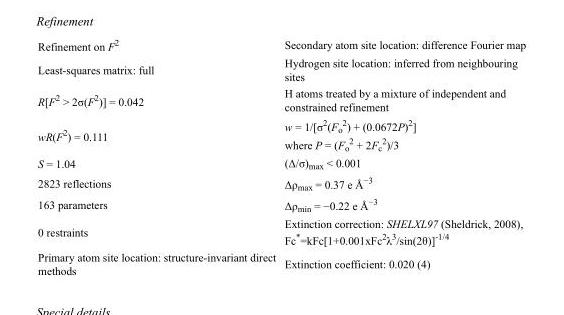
<table><tbody><tr><td>Refinement on F<sup>2</sup></td><td>Secondary atom site location: difference Fourier map</td></tr><tr><td>Least-squares matrix: full</td><td>Hydrogen site location: inferred from neighbouring sites</td></tr><tr><td>R[F<sup>2</sup> &gt; 2σ(F<sup>2</sup>)] = 0.042</td><td>H atoms treated by a mixture of independent and constrained refinement</td></tr><tr><td>wR(F<sup>2</sup>) = 0.111</td><td>w = 1/[σ<sup>2</sup>(F<sub>o</sub> <sup>2</sup>) + (0.0672P)<sup>2</sup>] where P = (F<sub>o</sub> <sup>2</sup> + 2F<sub>c</sub> <sup>2</sup>)/3</td></tr><tr><td>S = 1.04</td><td>(Δ/σ)<sub>max</sub> &lt; 0.001</td></tr><tr><td>2823 reflections</td><td>Δρ<sub>max</sub> = 0.37 e Å<sup>−3</sup></td></tr><tr><td>163 parameters</td><td>Δρ<sub>min</sub> = −0.22 e Å<sup>−3</sup></td></tr><tr><td>0 restraints</td><td>Extinction correction: SHELXL97 (Sheldrick, 2008), Fc*=kFc[1+0.001xFc<sup>2</sup>λ<sup>3</sup>/sin(2θ)]<sup>-1/4</sup></td></tr><tr><td>Primary atom site location: structure-invariant direct methods</td><td>Extinction coefficient: 0.020 (4)</td></tr></tbody></table>